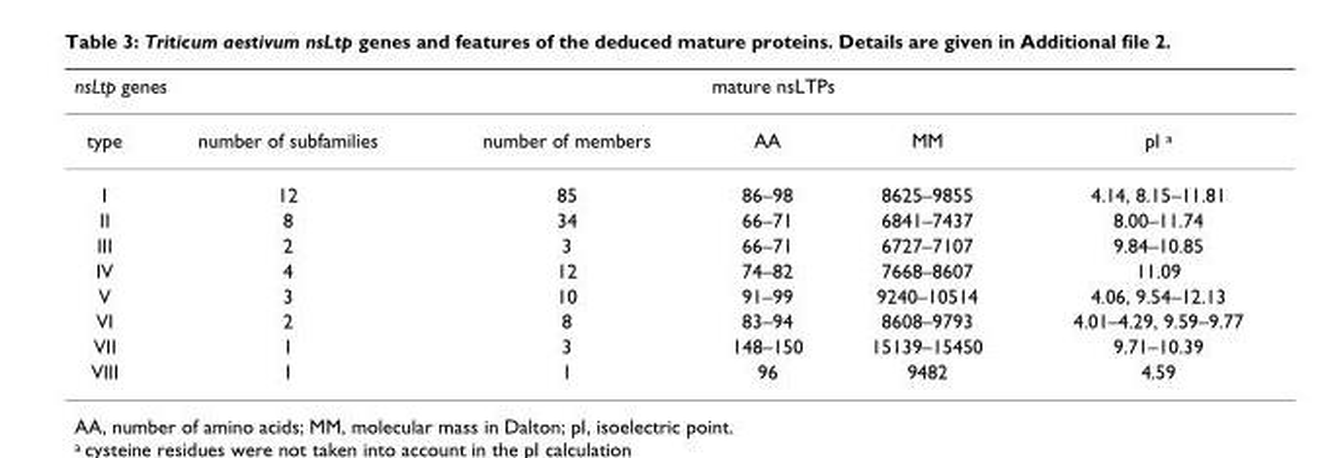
<table><thead><tr><td colspan="3">nsLtp genes</td><td colspan="3">mature nsLTPs</td></tr><tr><td>type</td><td>number of subfamilies</td><td>number of members</td><td>AA</td><td>MM</td><td>pI <sup>a</sup></td></tr></thead><tbody><tr><td>I</td><td>12</td><td>85</td><td>86–98</td><td>8625–9855</td><td>4.14, 8.15–11.81</td></tr><tr><td>II</td><td>8</td><td>34</td><td>66–71</td><td>6841–7437</td><td>8.00–11.74</td></tr><tr><td>III</td><td>2</td><td>3</td><td>66–71</td><td>6727–7107</td><td>9.84–10.85</td></tr><tr><td>IV</td><td>4</td><td>12</td><td>74–82</td><td>7668–8607</td><td>11.09</td></tr><tr><td>V</td><td>3</td><td>10</td><td>91–99</td><td>9240–10514</td><td>4.06, 9.54–12.13</td></tr><tr><td>VI</td><td>2</td><td>8</td><td>83–94</td><td>8608–9793</td><td>4.01–4.29, 9.59–9.77</td></tr><tr><td>VII</td><td>1</td><td>3</td><td>148–150</td><td>15139–15450</td><td>9.71–10.39</td></tr><tr><td>VIII</td><td>1</td><td>1</td><td>96</td><td>9482</td><td>4.59</td></tr></tbody></table>